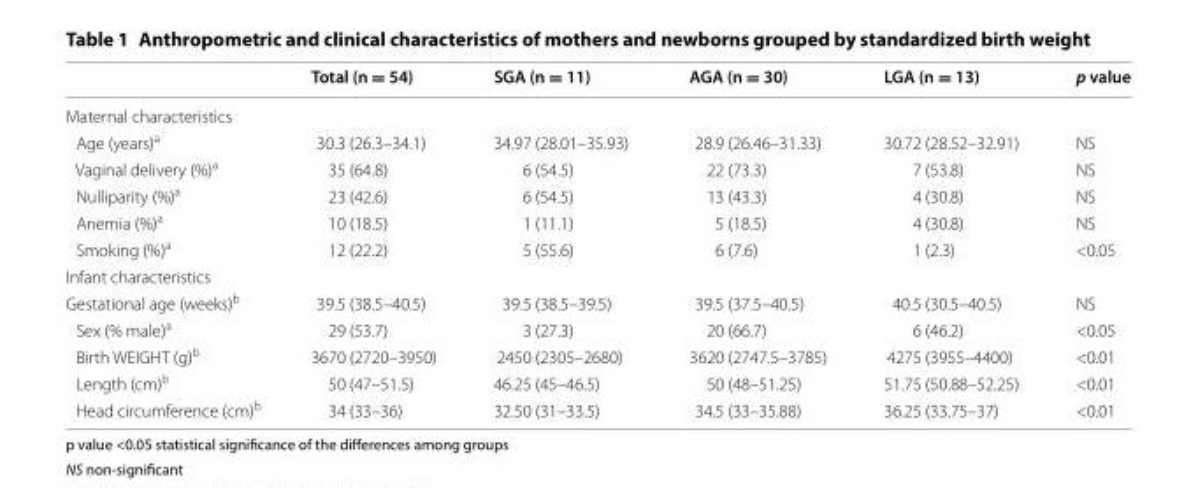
<table><thead><tr><td></td><td>Total (n = 54)</td><td>SGA (n = 11)</td><td>AGA (n = 30)</td><td>LGA (n = 13)</td><td>p value</td></tr></thead><tbody><tr><td colspan="6">Maternal characteristics</td></tr><tr><td>Age (years)<sup>a</sup></td><td>30.3 (26.3–34.1)</td><td>34.97 (28.01–35.93)</td><td>28.9 (26.46–31.33)</td><td>30.72 (28.52–32.91)</td><td>NS</td></tr><tr><td>Vaginal delivery (%)<sup>a</sup></td><td>35 (64.8)</td><td>6 (54.5)</td><td>22 (73.3)</td><td>7 (53.8)</td><td>NS</td></tr><tr><td>Nulliparity (%)<sup>a</sup></td><td>23 (42.6)</td><td>6 (54.5)</td><td>13 (43.3)</td><td>4 (30.8)</td><td>NS</td></tr><tr><td>Anemia (%)<sup>a</sup></td><td>10 (18.5)</td><td>1 (11.1)</td><td>5 (18.5)</td><td>4 (30.8)</td><td>NS</td></tr><tr><td>Smoking (%)<sup>a</sup></td><td>12 (22.2)</td><td>5 (55.6)</td><td>6 (7.6)</td><td>1 (2.3)</td><td>&lt;0.05</td></tr><tr><td colspan="6">Infant characteristics</td></tr><tr><td>Gestational age (weeks)<sup>b</sup></td><td>39.5 (38.5–40.5)</td><td>39.5 (38.5–39.5)</td><td>39.5 (37.5–40.5)</td><td>40.5 (30.5–40.5)</td><td>NS</td></tr><tr><td>Sex (% male)<sup>a</sup></td><td>29 (53.7)</td><td>3 (27.3)</td><td>20 (66.7)</td><td>6 (46.2)</td><td>&lt;0.05</td></tr><tr><td>Birth WEIGHT (g)<sup>b</sup></td><td>3670 (2720–3950)</td><td>2450 (2305–2680)</td><td>3620 (2747.5–3785)</td><td>4275 (3955–4400)</td><td>&lt;0.01</td></tr><tr><td>Length (cm)<sup>b</sup></td><td>50 (47–51.5)</td><td>46.25 (45–46.5)</td><td>50 (48–51.25)</td><td>51.75 (50.88–52.25)</td><td>&lt;0.01</td></tr><tr><td>Head circumference (cm)<sup>b</sup></td><td>34 (33–36)</td><td>32.50 (31–33.5)</td><td>34.5 (33–35.88)</td><td>36.25 (33.75–37)</td><td>&lt;0.01</td></tr></tbody></table>